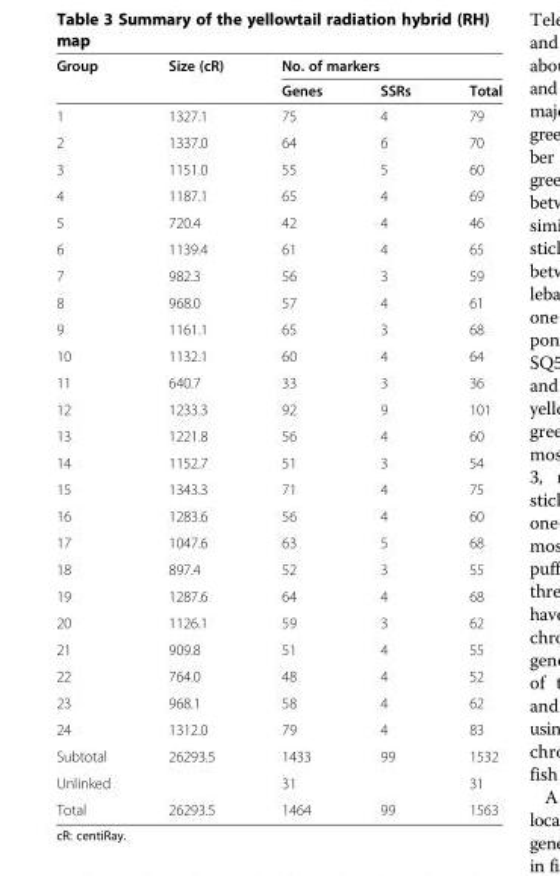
<table><thead><tr><td rowspan="2">Group</td><td rowspan="2">Size (cR)</td><td colspan="3">No. of markers</td></tr><tr><td>Genes</td><td>SSRs</td><td>Total</td></tr></thead><tbody><tr><td>1</td><td>1327.1</td><td>75</td><td>4</td><td>79</td></tr><tr><td>2</td><td>1337.0</td><td>64</td><td>6</td><td>70</td></tr><tr><td>3</td><td>1151.0</td><td>55</td><td>5</td><td>60</td></tr><tr><td>4</td><td>1187.1</td><td>65</td><td>4</td><td>69</td></tr><tr><td>5</td><td>720.4</td><td>42</td><td>4</td><td>46</td></tr><tr><td>6</td><td>1139.4</td><td>61</td><td>4</td><td>65</td></tr><tr><td>7</td><td>982.3</td><td>56</td><td>3</td><td>59</td></tr><tr><td>8</td><td>968.0</td><td>57</td><td>4</td><td>61</td></tr><tr><td>9</td><td>1161.1</td><td>65</td><td>3</td><td>68</td></tr><tr><td>10</td><td>1132.1</td><td>60</td><td>4</td><td>64</td></tr><tr><td>11</td><td>640.7</td><td>33</td><td>3</td><td>36</td></tr><tr><td>12</td><td>1233.3</td><td>92</td><td>9</td><td>101</td></tr><tr><td>13</td><td>1221.8</td><td>56</td><td>4</td><td>60</td></tr><tr><td>14</td><td>1152.7</td><td>51</td><td>3</td><td>54</td></tr><tr><td>15</td><td>1343.3</td><td>71</td><td>4</td><td>75</td></tr><tr><td>16</td><td>1283.6</td><td>56</td><td>4</td><td>60</td></tr><tr><td>17</td><td>1047.6</td><td>63</td><td>5</td><td>68</td></tr><tr><td>18</td><td>897.4</td><td>52</td><td>3</td><td>55</td></tr><tr><td>19</td><td>1287.6</td><td>64</td><td>4</td><td>68</td></tr><tr><td>20</td><td>1126.1</td><td>59</td><td>3</td><td>62</td></tr><tr><td>21</td><td>909.8</td><td>51</td><td>4</td><td>55</td></tr><tr><td>22</td><td>764.0</td><td>48</td><td>4</td><td>52</td></tr><tr><td>23</td><td>968.1</td><td>58</td><td>4</td><td>62</td></tr><tr><td>24</td><td>1312.0</td><td>79</td><td>4</td><td>83</td></tr><tr><td>Subtotal</td><td>26293.5</td><td>1433</td><td>99</td><td>1532</td></tr><tr><td>Unlinked</td><td></td><td>31</td><td></td><td>31</td></tr><tr><td>Total</td><td>26293.5</td><td>1464</td><td>99</td><td>1563</td></tr></tbody></table>